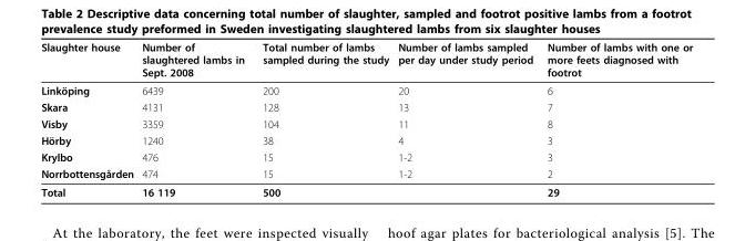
<table><thead><tr><td>Slaughter house</td><td>Number of slaughtered lambs in Sept. 2008</td><td>Total number of lambs sampled during the study</td><td>Number of lambs sampled per day under study period</td><td>Number of lambs with one or more feets diagnosed with footrot</td></tr></thead><tbody><tr><td>Linköping</td><td>6439</td><td>200</td><td>20</td><td>6</td></tr><tr><td>Skara</td><td>4131</td><td>128</td><td>13</td><td>7</td></tr><tr><td>Visby</td><td>3359</td><td>104</td><td>11</td><td>8</td></tr><tr><td>Hörby</td><td>1240</td><td>38</td><td>4</td><td>3</td></tr><tr><td>Krylbo</td><td>476</td><td>15</td><td>1-2</td><td>3</td></tr><tr><td>Norrbottensgården</td><td>474</td><td>15</td><td>1-2</td><td>2</td></tr><tr><td>Total</td><td>16 119</td><td>500</td><td></td><td>29</td></tr></tbody></table>